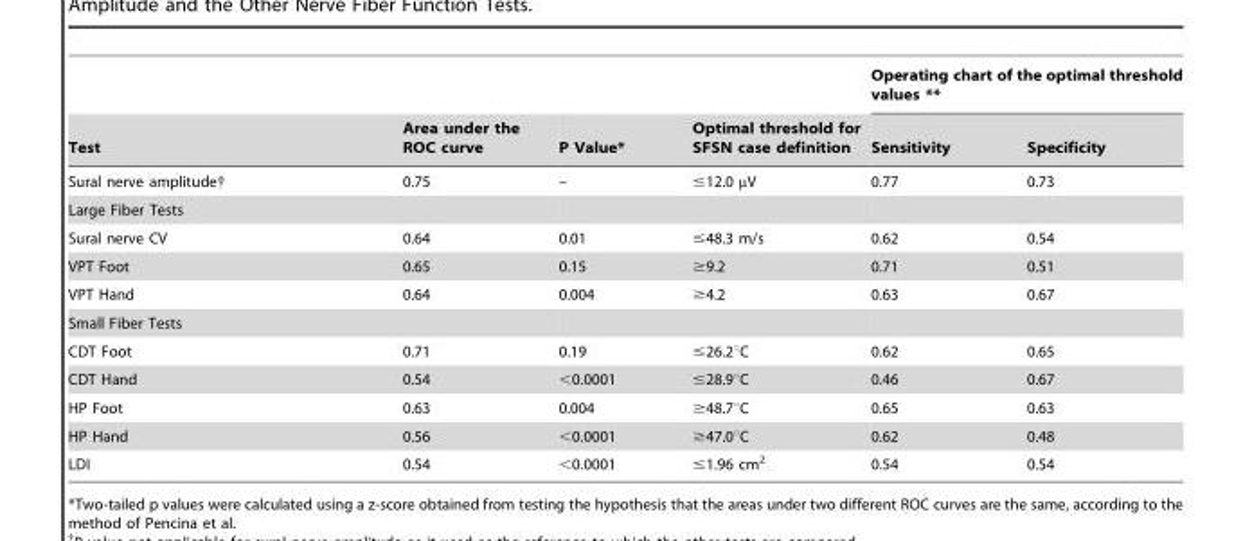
<table><thead><tr><td rowspan="2">Test</td><td rowspan="2">Area under the ROC curve</td><td rowspan="2">P Value*</td><td rowspan="2">Optimal threshold for SFSN case definition</td><td colspan="2">Operating chart of the optimal threshold values **</td></tr><tr><td>Sensitivity</td><td>Specificity</td></tr></thead><tbody><tr><td>Sural nerve amplitude†</td><td>0.75</td><td>–</td><td>≤12.0 µV</td><td>0.77</td><td>0.73</td></tr><tr><td colspan="6">Large Fiber Tests</td></tr><tr><td>Sural nerve CV</td><td>0.64</td><td>0.01</td><td>≤48.3 m/s</td><td>0.62</td><td>0.54</td></tr><tr><td>VPT Foot</td><td>0.65</td><td>0.15</td><td>≥9.2</td><td>0.71</td><td>0.51</td></tr><tr><td>VPT Hand</td><td>0.64</td><td>0.004</td><td>≥4.2</td><td>0.63</td><td>0.67</td></tr><tr><td colspan="6">Small Fiber Tests</td></tr><tr><td>CDT Foot</td><td>0.71</td><td>0.19</td><td>≤26.2°C</td><td>0.62</td><td>0.65</td></tr><tr><td>CDT Hand</td><td>0.54</td><td>&lt;0.0001</td><td>≤28.9°C</td><td>0.46</td><td>0.67</td></tr><tr><td>HP Foot</td><td>0.63</td><td>0.004</td><td>≥48.7°C</td><td>0.65</td><td>0.63</td></tr><tr><td>HP Hand</td><td>0.56</td><td>&lt;0.0001</td><td>≥47.0°C</td><td>0.62</td><td>0.48</td></tr><tr><td>LDI</td><td>0.54</td><td>&lt;0.0001</td><td>≤1.96 cm<sup>2</sup></td><td>0.54</td><td>0.54</td></tr></tbody></table>